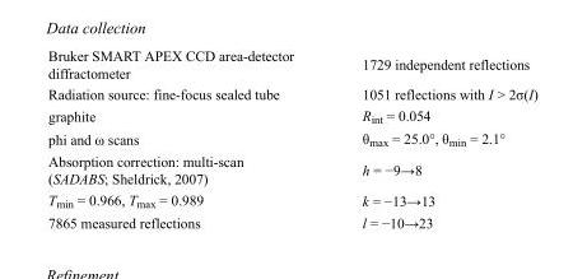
<table><tbody><tr><td>Bruker SMART APEX CCD area-detector diffractometer</td><td>1729 independent reflections</td></tr><tr><td>Radiation source: fine-focus sealed tube</td><td>1051 reflections with I &gt; 2σ(I)</td></tr><tr><td>graphite</td><td>R<sub>int</sub> = 0.054</td></tr><tr><td>phi and ω scans</td><td>θ<sub>max</sub> = 25.0°, θ<sub>min</sub> = 2.1°</td></tr><tr><td>Absorption correction: multi-scan (SADABS; Sheldrick, 2007)</td><td>h = −9→8</td></tr><tr><td>T<sub>min</sub> = 0.966, T<sub>max</sub> = 0.989</td><td>k = −13→13</td></tr><tr><td>7865 measured reflections</td><td>l = −10→23</td></tr></tbody></table>